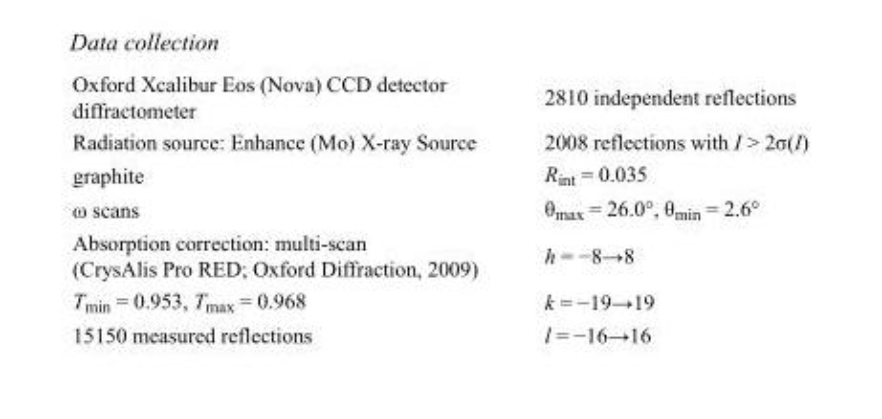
<table><tbody><tr><td>Oxford Xcalibur Eos (Nova) CCD detector diffractometer</td><td>2810 independent reflections</td></tr><tr><td>Radiation source: Enhance (Mo) X-ray Source</td><td>2008 reflections with I &gt; 2σ(I)</td></tr><tr><td>graphite</td><td>R<sub>int</sub> = 0.035</td></tr><tr><td>ω scans</td><td>θ<sub>max</sub> = 26.0°, θ<sub>min</sub> = 2.6°</td></tr><tr><td>Absorption correction: multi-scan (CrysAlis Pro RED; Oxford Diffraction, 2009)</td><td>h = −8→8</td></tr><tr><td>T<sub>min</sub> = 0.953, T<sub>max</sub> = 0.968</td><td>k = −19→19</td></tr><tr><td>15150 measured reflections</td><td>l = −16→16</td></tr></tbody></table>